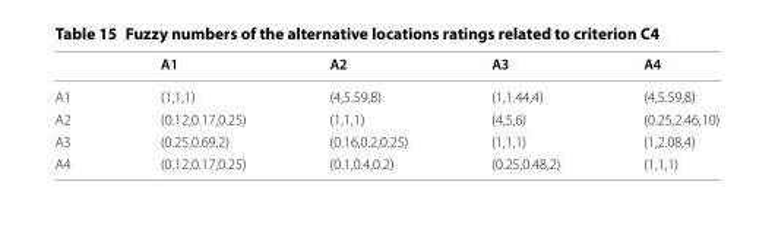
<table><thead><tr><td></td><td>A1</td><td>A2</td><td>A3</td><td>A4</td></tr></thead><tbody><tr><td>A1</td><td>(1,1,1)</td><td>(4,5.59,8)</td><td>(1,1.44,4)</td><td>(4,5.59,8)</td></tr><tr><td>A2</td><td>(0.12,0.17,0.25)</td><td>(1,1,1)</td><td>(4,5,6)</td><td>(0.25,2.46,10)</td></tr><tr><td>A3</td><td>(0.25,0.69,2)</td><td>(0.16,0.2,0.25)</td><td>(1,1,1)</td><td>(1,2.08,4)</td></tr><tr><td>A4</td><td>(0.12,0.17,0.25)</td><td>(0.1,0.4,0.2)</td><td>(0.25,0.48,2)</td><td>(1,1,1)</td></tr></tbody></table>